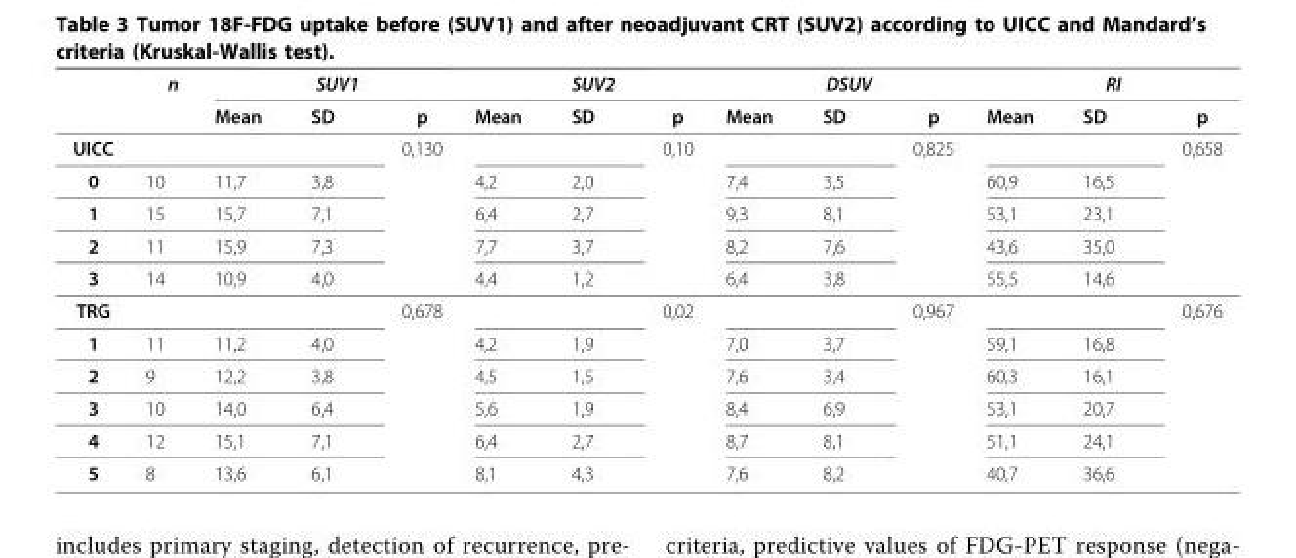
<table><thead><tr><td rowspan="2"></td><td rowspan="2">n</td><td colspan="3">SUV1</td><td colspan="3">SUV2</td><td colspan="3">DSUV</td><td colspan="3">RI</td></tr><tr><td>Mean</td><td>SD</td><td>p</td><td>Mean</td><td>SD</td><td>p</td><td>Mean</td><td>SD</td><td>p</td><td>Mean</td><td>SD</td><td>p</td></tr></thead><tbody><tr><td>UICC</td><td></td><td></td><td></td><td>0,130</td><td></td><td></td><td>0,10</td><td></td><td></td><td>0,825</td><td></td><td></td><td>0,658</td></tr><tr><td>0</td><td>10</td><td>11,7</td><td>3,8</td><td></td><td>4,2</td><td>2,0</td><td></td><td>7,4</td><td>3,5</td><td></td><td>60,9</td><td>16,5</td><td></td></tr><tr><td>1</td><td>15</td><td>15,7</td><td>7,1</td><td></td><td>6,4</td><td>2,7</td><td></td><td>9,3</td><td>8,1</td><td></td><td>53,1</td><td>23,1</td><td></td></tr><tr><td>2</td><td>11</td><td>15,9</td><td>7,3</td><td></td><td>7,7</td><td>3,7</td><td></td><td>8,2</td><td>7,6</td><td></td><td>43,6</td><td>35,0</td><td></td></tr><tr><td>3</td><td>14</td><td>10,9</td><td>4,0</td><td></td><td>4,4</td><td>1,2</td><td></td><td>6,4</td><td>3,8</td><td></td><td>55,5</td><td>14,6</td><td></td></tr><tr><td>TRG</td><td></td><td></td><td></td><td>0,678</td><td></td><td></td><td>0,02</td><td></td><td></td><td>0,967</td><td></td><td></td><td>0,676</td></tr><tr><td>1</td><td>11</td><td>11,2</td><td>4,0</td><td></td><td>4,2</td><td>1,9</td><td></td><td>7,0</td><td>3,7</td><td></td><td>59,1</td><td>16,8</td><td></td></tr><tr><td>2</td><td>9</td><td>12,2</td><td>3,8</td><td></td><td>4,5</td><td>1,5</td><td></td><td>7,6</td><td>3,4</td><td></td><td>60,3</td><td>16,1</td><td></td></tr><tr><td>3</td><td>10</td><td>14,0</td><td>6,4</td><td></td><td>5,6</td><td>1,9</td><td></td><td>8,4</td><td>6,9</td><td></td><td>53,1</td><td>20,7</td><td></td></tr><tr><td>4</td><td>12</td><td>15,1</td><td>7,1</td><td></td><td>6,4</td><td>2,7</td><td></td><td>8,7</td><td>8,1</td><td></td><td>51,1</td><td>24,1</td><td></td></tr><tr><td>5</td><td>8</td><td>13,6</td><td>6,1</td><td></td><td>8,1</td><td>4,3</td><td></td><td>7,6</td><td>8,2</td><td></td><td>40,7</td><td>36,6</td><td></td></tr></tbody></table>